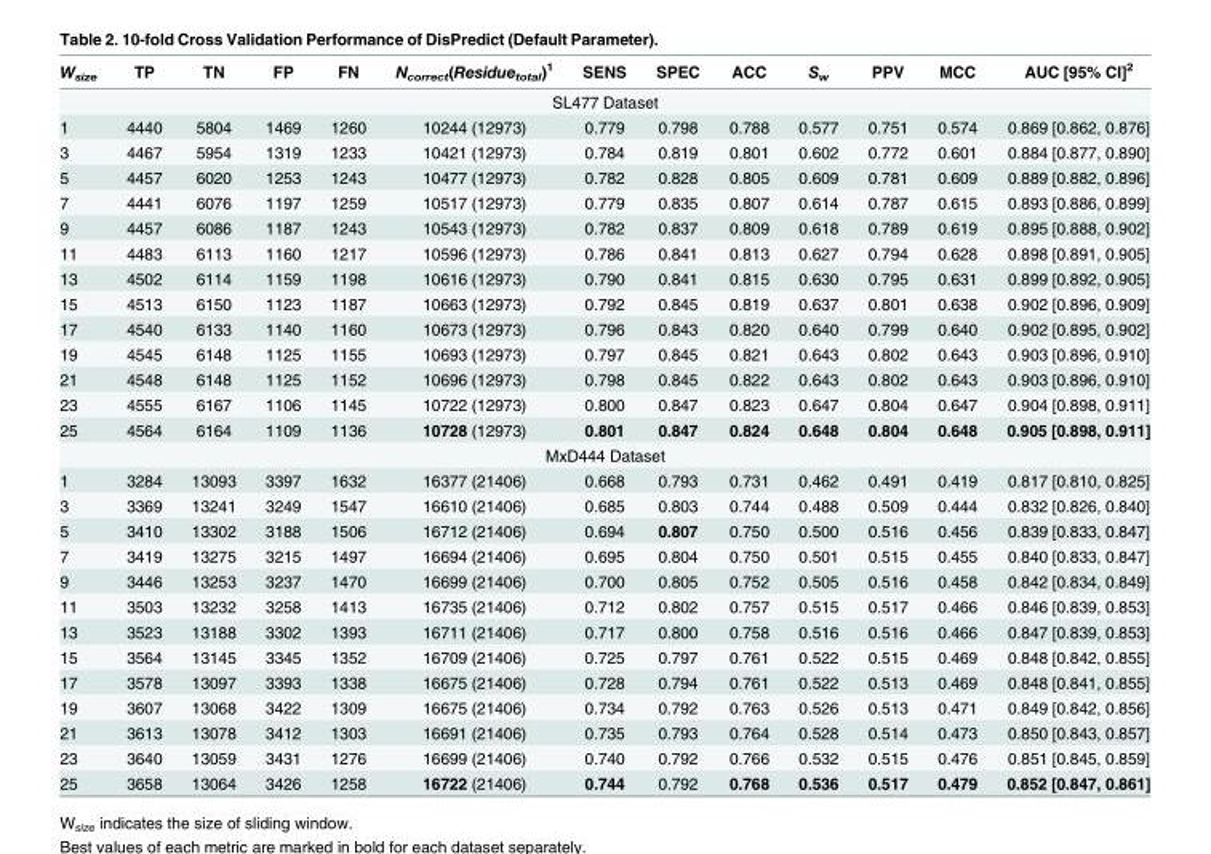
<table><thead><tr><td>W<sub>size</sub></td><td>TP</td><td>TN</td><td>FP</td><td>FN</td><td>N<sub>correct</sub>(Residue<sub>total</sub>)<sup>1</sup></td><td>SENS</td><td>SPEC</td><td>ACC</td><td>S<sub>w</sub></td><td>PPV</td><td>MCC</td><td>AUC [95% CI]<sup>2</sup></td></tr></thead><tbody><tr><td colspan="13">SL477 Dataset</td></tr><tr><td>1</td><td>4440</td><td>5804</td><td>1469</td><td>1260</td><td>10244 (12973)</td><td>0.779</td><td>0.798</td><td>0.788</td><td>0.577</td><td>0.751</td><td>0.574</td><td>0.869 [0.862, 0.876]</td></tr><tr><td>3</td><td>4467</td><td>5954</td><td>1319</td><td>1233</td><td>10421 (12973)</td><td>0.784</td><td>0.819</td><td>0.801</td><td>0.602</td><td>0.772</td><td>0.601</td><td>0.884 [0.877, 0.890]</td></tr><tr><td>5</td><td>4457</td><td>6020</td><td>1253</td><td>1243</td><td>10477 (12973)</td><td>0.782</td><td>0.828</td><td>0.805</td><td>0.609</td><td>0.781</td><td>0.609</td><td>0.889 [0.882, 0.896]</td></tr><tr><td>7</td><td>4441</td><td>6076</td><td>1197</td><td>1259</td><td>10517 (12973)</td><td>0.779</td><td>0.835</td><td>0.807</td><td>0.614</td><td>0.787</td><td>0.615</td><td>0.893 [0.886, 0.899]</td></tr><tr><td>9</td><td>4457</td><td>6086</td><td>1187</td><td>1243</td><td>10543 (12973)</td><td>0.782</td><td>0.837</td><td>0.809</td><td>0.618</td><td>0.789</td><td>0.619</td><td>0.895 [0.888, 0.902]</td></tr><tr><td>11</td><td>4483</td><td>6113</td><td>1160</td><td>1217</td><td>10596 (12973)</td><td>0.786</td><td>0.841</td><td>0.813</td><td>0.627</td><td>0.794</td><td>0.628</td><td>0.898 [0.891, 0.905]</td></tr><tr><td>13</td><td>4502</td><td>6114</td><td>1159</td><td>1198</td><td>10616 (12973)</td><td>0.790</td><td>0.841</td><td>0.815</td><td>0.630</td><td>0.795</td><td>0.631</td><td>0.899 [0.892, 0.905]</td></tr><tr><td>15</td><td>4513</td><td>6150</td><td>1123</td><td>1187</td><td>10663 (12973)</td><td>0.792</td><td>0.845</td><td>0.819</td><td>0.637</td><td>0.801</td><td>0.638</td><td>0.902 [0.896, 0.909]</td></tr><tr><td>17</td><td>4540</td><td>6133</td><td>1140</td><td>1160</td><td>10673 (12973)</td><td>0.796</td><td>0.843</td><td>0.820</td><td>0.640</td><td>0.799</td><td>0.640</td><td>0.902 [0.895, 0.902]</td></tr><tr><td>19</td><td>4545</td><td>6148</td><td>1125</td><td>1155</td><td>10693 (12973)</td><td>0.797</td><td>0.845</td><td>0.821</td><td>0.643</td><td>0.802</td><td>0.643</td><td>0.903 [0.896, 0.910]</td></tr><tr><td>21</td><td>4548</td><td>6148</td><td>1125</td><td>1152</td><td>10696 (12973)</td><td>0.798</td><td>0.845</td><td>0.822</td><td>0.643</td><td>0.802</td><td>0.643</td><td>0.903 [0.896, 0.910]</td></tr><tr><td>23</td><td>4555</td><td>6167</td><td>1106</td><td>1145</td><td>10722 (12973)</td><td>0.800</td><td>0.847</td><td>0.823</td><td>0.647</td><td>0.804</td><td>0.647</td><td>0.904 [0.898, 0.911]</td></tr><tr><td>25</td><td>4564</td><td>6164</td><td>1109</td><td>1136</td><td>10728 (12973)</td><td>0.801</td><td>0.847</td><td>0.824</td><td>0.648</td><td>0.804</td><td>0.648</td><td>0.905 [0.898, 0.911]</td></tr><tr><td colspan="13">MxD444 Dataset</td></tr><tr><td>1</td><td>3284</td><td>13093</td><td>3397</td><td>1632</td><td>16377 (21406)</td><td>0.668</td><td>0.793</td><td>0.731</td><td>0.462</td><td>0.491</td><td>0.419</td><td>0.817 [0.810, 0.825]</td></tr><tr><td>3</td><td>3369</td><td>13241</td><td>3249</td><td>1547</td><td>16610 (21406)</td><td>0.685</td><td>0.803</td><td>0.744</td><td>0.488</td><td>0.509</td><td>0.444</td><td>0.832 [0.826, 0.840]</td></tr><tr><td>5</td><td>3410</td><td>13302</td><td>3188</td><td>1506</td><td>16712 (21406)</td><td>0.694</td><td>0.807</td><td>0.750</td><td>0.500</td><td>0.516</td><td>0.456</td><td>0.839 [0.833, 0.847]</td></tr><tr><td>7</td><td>3419</td><td>13275</td><td>3215</td><td>1497</td><td>16694 (21406)</td><td>0.695</td><td>0.804</td><td>0.750</td><td>0.501</td><td>0.515</td><td>0.455</td><td>0.840 [0.833, 0.847]</td></tr><tr><td>9</td><td>3446</td><td>13253</td><td>3237</td><td>1470</td><td>16699 (21406)</td><td>0.700</td><td>0.805</td><td>0.752</td><td>0.505</td><td>0.516</td><td>0.458</td><td>0.842 [0.834, 0.849]</td></tr><tr><td>11</td><td>3503</td><td>13232</td><td>3258</td><td>1413</td><td>16735 (21406)</td><td>0.712</td><td>0.802</td><td>0.757</td><td>0.515</td><td>0.517</td><td>0.466</td><td>0.846 [0.839, 0.853]</td></tr><tr><td>13</td><td>3523</td><td>13188</td><td>3302</td><td>1393</td><td>16711 (21406)</td><td>0.717</td><td>0.800</td><td>0.758</td><td>0.516</td><td>0.516</td><td>0.466</td><td>0.847 [0.839, 0.853]</td></tr><tr><td>15</td><td>3564</td><td>13145</td><td>3345</td><td>1352</td><td>16709 (21406)</td><td>0.725</td><td>0.797</td><td>0.761</td><td>0.522</td><td>0.515</td><td>0.469</td><td>0.848 [0.842, 0.855]</td></tr><tr><td>17</td><td>3578</td><td>13097</td><td>3393</td><td>1338</td><td>16675 (21406)</td><td>0.728</td><td>0.794</td><td>0.761</td><td>0.522</td><td>0.513</td><td>0.469</td><td>0.848 [0.841, 0.855]</td></tr><tr><td>19</td><td>3607</td><td>13068</td><td>3422</td><td>1309</td><td>16675 (21406)</td><td>0.734</td><td>0.792</td><td>0.763</td><td>0.526</td><td>0.513</td><td>0.471</td><td>0.849 [0.842, 0.856]</td></tr><tr><td>21</td><td>3613</td><td>13078</td><td>3412</td><td>1303</td><td>16691 (21406)</td><td>0.735</td><td>0.793</td><td>0.764</td><td>0.528</td><td>0.514</td><td>0.473</td><td>0.850 [0.843, 0.857]</td></tr><tr><td>23</td><td>3640</td><td>13059</td><td>3431</td><td>1276</td><td>16699 (21406)</td><td>0.740</td><td>0.792</td><td>0.766</td><td>0.532</td><td>0.515</td><td>0.476</td><td>0.851 [0.845, 0.859]</td></tr><tr><td>25</td><td>3658</td><td>13064</td><td>3426</td><td>1258</td><td>16722 (21406)</td><td>0.744</td><td>0.792</td><td>0.768</td><td>0.536</td><td>0.517</td><td>0.479</td><td>0.852 [0.847, 0.861]</td></tr></tbody></table>